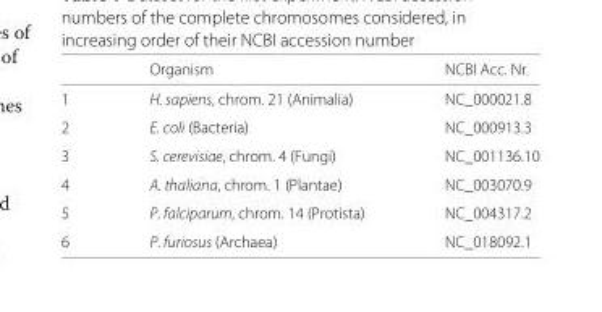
<table><thead><tr><td></td><td>Organism</td><td>NCBI Acc. Nr.</td></tr></thead><tbody><tr><td>1</td><td>H. sapiens, chrom. 21 (Animalia)</td><td>NC_000021.8</td></tr><tr><td>2</td><td>E. coli (Bacteria)</td><td>NC_000913.3</td></tr><tr><td>3</td><td>S. cerevisiae, chrom. 4 (Fungi)</td><td>NC_001136.10</td></tr><tr><td>4</td><td>A. thaliana, chrom. 1 (Plantae)</td><td>NC_003070.9</td></tr><tr><td>5</td><td>P. falciparum, chrom. 14 (Protista)</td><td>NC_004317.2</td></tr><tr><td>6</td><td>P. furiosus (Archaea)</td><td>NC_018092.1</td></tr></tbody></table>